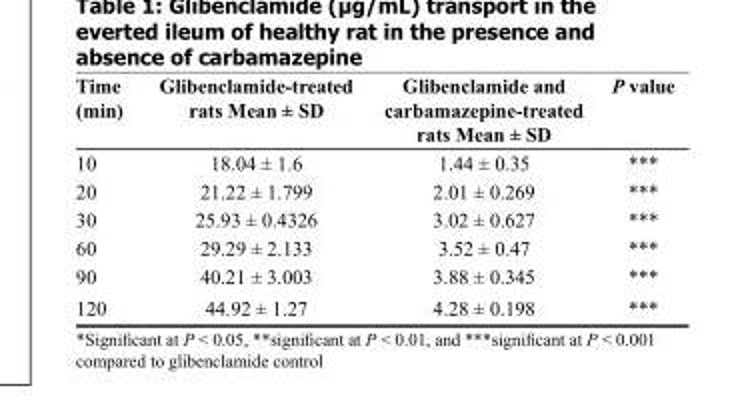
<table><thead><tr><td>Time (min)</td><td>Glibenclamide-treated rats Mean ± SD</td><td>Glibenclamide and carbamazepine-treated rats Mean ± SD</td><td>P value</td></tr></thead><tbody><tr><td>10</td><td>18.04 ± 1.6</td><td>1.44 ± 0.35</td><td>***</td></tr><tr><td>20</td><td>21.22 ± 1.799</td><td>2.01 ± 0.269</td><td>***</td></tr><tr><td>30</td><td>25.93 ± 0.4326</td><td>3.02 ± 0.627</td><td>***</td></tr><tr><td>60</td><td>29.29 ± 2.133</td><td>3.52 ± 0.47</td><td>***</td></tr><tr><td>90</td><td>40.21 ± 3.003</td><td>3.88 ± 0.345</td><td>***</td></tr><tr><td>120</td><td>44.92 ± 1.27</td><td>4.28 ± 0.198</td><td>***</td></tr></tbody></table>